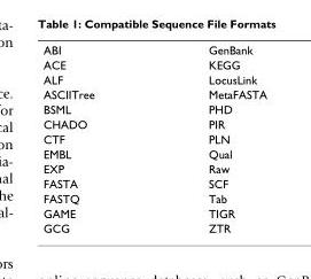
<table><tbody><tr><td>ABI</td><td>GenBank</td></tr><tr><td>ACE</td><td>KEGG</td></tr><tr><td>ALF</td><td>LocusLink</td></tr><tr><td>ASCIITree</td><td>MetaFASTA</td></tr><tr><td>BSML</td><td>PHD</td></tr><tr><td>CHADO</td><td>PIR</td></tr><tr><td>CTF</td><td>PLN</td></tr><tr><td>EMBL</td><td>Qual</td></tr><tr><td>EXP</td><td>Raw</td></tr><tr><td>FASTA</td><td>SCF</td></tr><tr><td>FASTQ</td><td>Tab</td></tr><tr><td>GAME</td><td>TIGR</td></tr><tr><td>GCG</td><td>ZTR</td></tr></tbody></table>